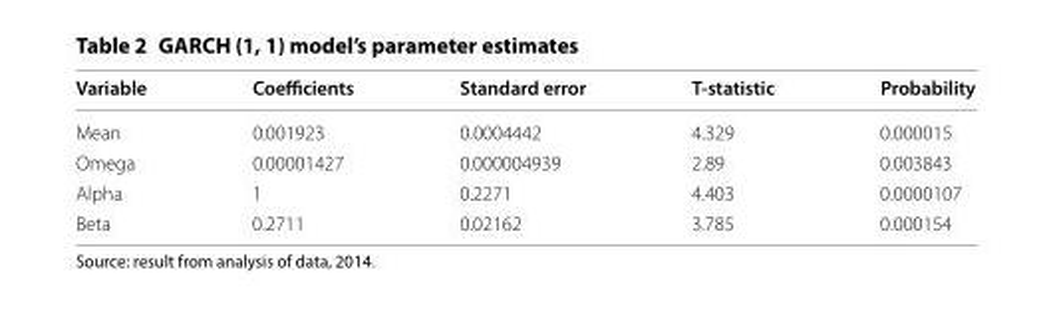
<table><thead><tr><td>Variable</td><td>Coefficients</td><td>Standard error</td><td>T-statistic</td><td>Probability</td></tr></thead><tbody><tr><td>Mean</td><td>0.001923</td><td>0.0004442</td><td>4.329</td><td>0.000015</td></tr><tr><td>Omega</td><td>0.00001427</td><td>0.000004939</td><td>2.89</td><td>0.003843</td></tr><tr><td>Alpha</td><td>1</td><td>0.2271</td><td>4.403</td><td>0.0000107</td></tr><tr><td>Beta</td><td>0.2711</td><td>0.02162</td><td>3.785</td><td>0.000154</td></tr></tbody></table>